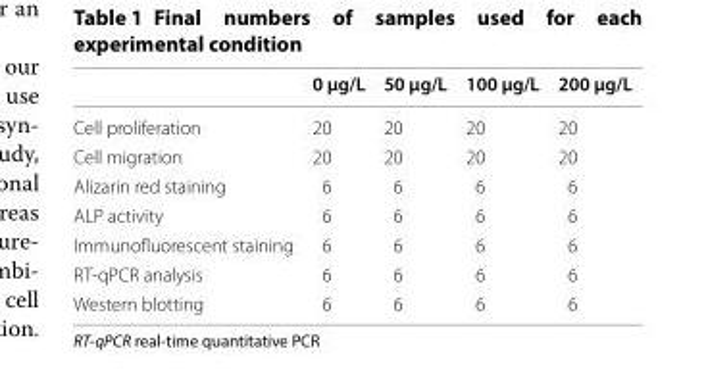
<table><thead><tr><td></td><td>0 μg/L</td><td>50 μg/L</td><td>100 μg/L</td><td>200 μg/L</td></tr></thead><tbody><tr><td>Cell proliferation</td><td>20</td><td>20</td><td>20</td><td>20</td></tr><tr><td>Cell migration</td><td>20</td><td>20</td><td>20</td><td>20</td></tr><tr><td>Alizarin red staining</td><td>6</td><td>6</td><td>6</td><td>6</td></tr><tr><td>ALP activity</td><td>6</td><td>6</td><td>6</td><td>6</td></tr><tr><td>Immunofluorescent staining</td><td>6</td><td>6</td><td>6</td><td>6</td></tr><tr><td>RT-qPCR analysis</td><td>6</td><td>6</td><td>6</td><td>6</td></tr><tr><td>Western blotting</td><td>6</td><td>6</td><td>6</td><td>6</td></tr></tbody></table>